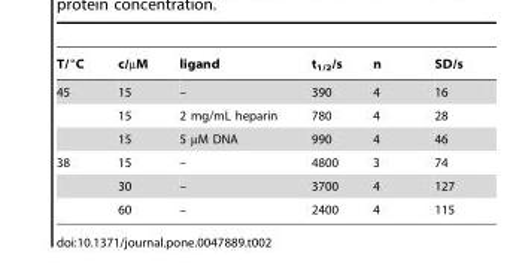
<table><thead><tr><td>T/°C</td><td>c/µM</td><td>ligand</td><td>t<sub>1/2</sub>/s</td><td>n</td><td>SD/s</td></tr></thead><tbody><tr><td rowspan="3">45</td><td>15</td><td>–</td><td>390</td><td>4</td><td>16</td></tr><tr><td>15</td><td>2 mg/mL heparin</td><td>780</td><td>4</td><td>28</td></tr><tr><td>15</td><td>5 µM DNA</td><td>990</td><td>4</td><td>46</td></tr><tr><td rowspan="3">38</td><td>15</td><td>–</td><td>4800</td><td>3</td><td>74</td></tr><tr><td>30</td><td>–</td><td>3700</td><td>4</td><td>127</td></tr><tr><td>60</td><td>–</td><td>2400</td><td>4</td><td>115</td></tr></tbody></table>